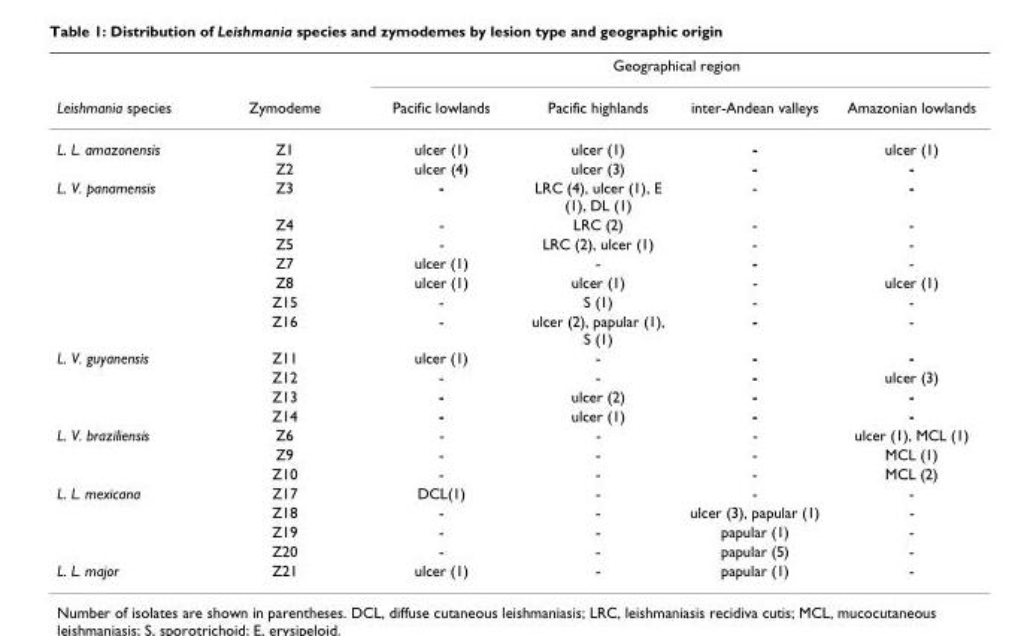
<table><thead><tr><td rowspan="2">Leishmania species</td><td rowspan="2">Zymodeme</td><td colspan="4">Geographical region</td></tr><tr><td>Pacific lowlands</td><td>Pacific highlands</td><td>inter-Andean valleys</td><td>Amazonian lowlands</td></tr></thead><tbody><tr><td rowspan="2">L. L. amazonensis</td><td>Z1</td><td>ulcer (1)</td><td>ulcer (1)</td><td>-</td><td>ulcer (1)</td></tr><tr><td>Z2</td><td>ulcer (4)</td><td>ulcer (3)</td><td>-</td><td>-</td></tr><tr><td rowspan="7">L. V. panamensis</td><td>Z3</td><td>-</td><td>LRC (4), ulcer (1), E (1), DL (1)</td><td>-</td><td>-</td></tr><tr><td>Z4</td><td>-</td><td>LRC (2)</td><td>-</td><td>-</td></tr><tr><td>Z5</td><td>-</td><td>LRC (2), ulcer (1)</td><td>-</td><td>-</td></tr><tr><td>Z7</td><td>ulcer (1)</td><td>-</td><td>-</td><td>-</td></tr><tr><td>Z8</td><td>ulcer (1)</td><td>ulcer (1)</td><td>-</td><td>ulcer (1)</td></tr><tr><td>Z15</td><td>-</td><td>S (1)</td><td>-</td><td>-</td></tr><tr><td>Z16</td><td>-</td><td>ulcer (2), papular (1), S (1)</td><td>-</td><td>-</td></tr><tr><td rowspan="4">L. V. guyanensis</td><td>Z11</td><td>ulcer (1)</td><td>-</td><td>-</td><td>-</td></tr><tr><td>Z12</td><td>-</td><td>-</td><td>-</td><td>ulcer (3)</td></tr><tr><td>Z13</td><td>-</td><td>ulcer (2)</td><td>-</td><td>-</td></tr><tr><td>Z14</td><td>-</td><td>ulcer (1)</td><td>-</td><td>-</td></tr><tr><td rowspan="3">L. V. braziliensis</td><td>Z6</td><td>-</td><td>-</td><td>-</td><td>ulcer (1), MCL (1)</td></tr><tr><td>Z9</td><td>-</td><td>-</td><td>-</td><td>MCL (1)</td></tr><tr><td>Z10</td><td>-</td><td>-</td><td>-</td><td>MCL (2)</td></tr><tr><td rowspan="4">L. L. mexicana</td><td>Z17</td><td>DCL(1)</td><td>-</td><td>-</td><td>-</td></tr><tr><td>Z18</td><td>-</td><td>-</td><td>ulcer (3), papular (1)</td><td>-</td></tr><tr><td>Z19</td><td>-</td><td>-</td><td>papular (1)</td><td>-</td></tr><tr><td>Z20</td><td>-</td><td>-</td><td>papular (5)</td><td>-</td></tr><tr><td>L. L. major</td><td>Z21</td><td>ulcer (1)</td><td>-</td><td>papular (1)</td><td>-</td></tr></tbody></table>